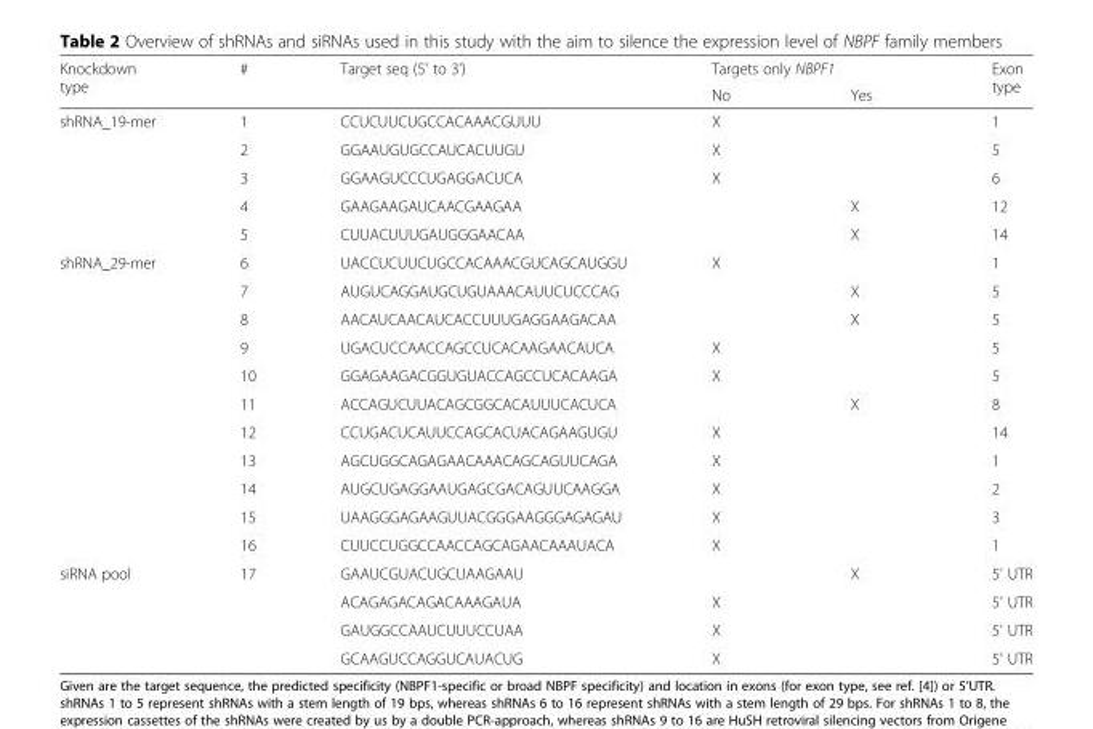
<table><thead><tr><td rowspan="2">Knockdown type</td><td rowspan="2">#</td><td rowspan="2">Target seq (5&#x27; to 3&#x27;)</td><td colspan="2">Targets only NBPF1</td><td rowspan="2">Exon type</td></tr><tr><td>No</td><td>Yes</td></tr></thead><tbody><tr><td rowspan="5">shRNA_19-mer</td><td>1</td><td>CCUCUUCUGCCACAAACGUUU</td><td>X</td><td></td><td>1</td></tr><tr><td>2</td><td>GGAAUGUGCCAUCACUUGU</td><td>X</td><td></td><td>5</td></tr><tr><td>3</td><td>GGAAGUCCCUGAGGACUCA</td><td>X</td><td></td><td>6</td></tr><tr><td>4</td><td>GAAGAAGAUCAACGAAGAA</td><td></td><td>X</td><td>12</td></tr><tr><td>5</td><td>CUUACUUUGAUGGGAACAA</td><td></td><td>X</td><td>14</td></tr><tr><td rowspan="11">shRNA_29-mer</td><td>6</td><td>UACCUCUUCUGCCACAAACGUCAGCAUGGU</td><td>X</td><td></td><td>1</td></tr><tr><td>7</td><td>AUGUCAGGAUGCUGUAAACAUUCUCCCAG</td><td></td><td>X</td><td>5</td></tr><tr><td>8</td><td>AACAUCAACAUCACCUUUGAGGAAGACAA</td><td></td><td>X</td><td>5</td></tr><tr><td>9</td><td>UGACUCCAACCAGCCUCACAAGAACAUCA</td><td>X</td><td></td><td>5</td></tr><tr><td>10</td><td>GGAGAAGACGGUGUACCAGCCUCACAAGA</td><td>X</td><td></td><td>5</td></tr><tr><td>11</td><td>ACCAGUCUUACAGCGGCACAUUUCACUCA</td><td></td><td>X</td><td>8</td></tr><tr><td>12</td><td>CCUGACUCAUUCCAGCACUACAGAAGUGU</td><td>X</td><td></td><td>14</td></tr><tr><td>13</td><td>AGCUGGCAGAGAACAAACAGCAGUUCAGA</td><td>X</td><td></td><td>1</td></tr><tr><td>14</td><td>AUGCUGAGGAAUGAGCGACAGUUCAAGGA</td><td>X</td><td></td><td>2</td></tr><tr><td>15</td><td>UAAGGGAGAAGUUACGGGAAGGGAGAGAU</td><td>X</td><td></td><td>3</td></tr><tr><td>16</td><td>CUUCCUGGCCAACCAGCAGAACAAAUACA</td><td>X</td><td></td><td>1</td></tr><tr><td rowspan="4">siRNA pool</td><td rowspan="4">17</td><td>GAAUCGUACUGCUAAGAAU</td><td></td><td>X</td><td>5&#x27; UTR</td></tr><tr><td>ACAGAGACAGACAAAGAUA</td><td>X</td><td></td><td>5&#x27; UTR</td></tr><tr><td>GAUGGCCAAUCUUUCCUAA</td><td>X</td><td></td><td>5&#x27; UTR</td></tr><tr><td>GCAAGUCCAGGUCAUACUG</td><td>X</td><td></td><td>5&#x27; UTR</td></tr></tbody></table>